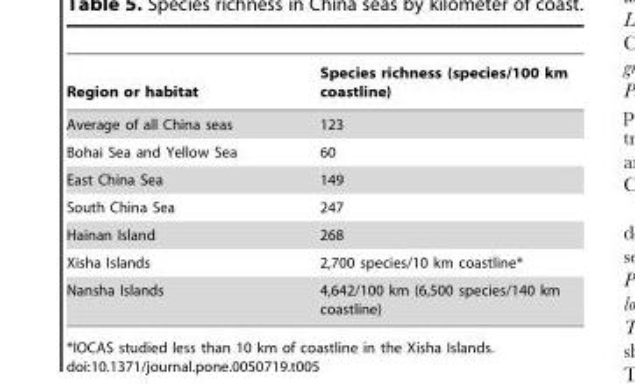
<table><thead><tr><td>Region or habitat</td><td>Species richness (species/100 km coastline)</td></tr></thead><tbody><tr><td>Average of all China seas</td><td>123</td></tr><tr><td>Bohai Sea and Yellow Sea</td><td>60</td></tr><tr><td>East China Sea</td><td>149</td></tr><tr><td>South China Sea</td><td>247</td></tr><tr><td>Hainan Island</td><td>268</td></tr><tr><td>Xisha Islands</td><td>2,700 species/10 km coastline*</td></tr><tr><td>Nansha Islands</td><td>4,642/100 km (6,500 species/140 km coastline)</td></tr></tbody></table>